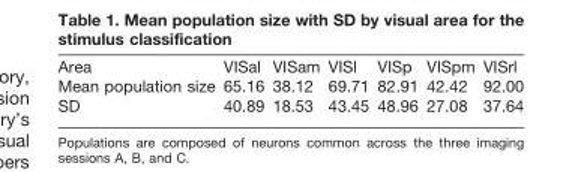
<table><thead><tr><td>Area</td><td>VISal</td><td>VISam</td><td>VISl</td><td>VISp</td><td>VISpm</td><td>VISrl</td></tr></thead><tbody><tr><td>Mean population size</td><td>65.16</td><td>38.12</td><td>69.71</td><td>82.91</td><td>42.42</td><td>92.00</td></tr><tr><td>SD</td><td>40.89</td><td>18.53</td><td>43.45</td><td>48.96</td><td>27.08</td><td>37.64</td></tr></tbody></table>